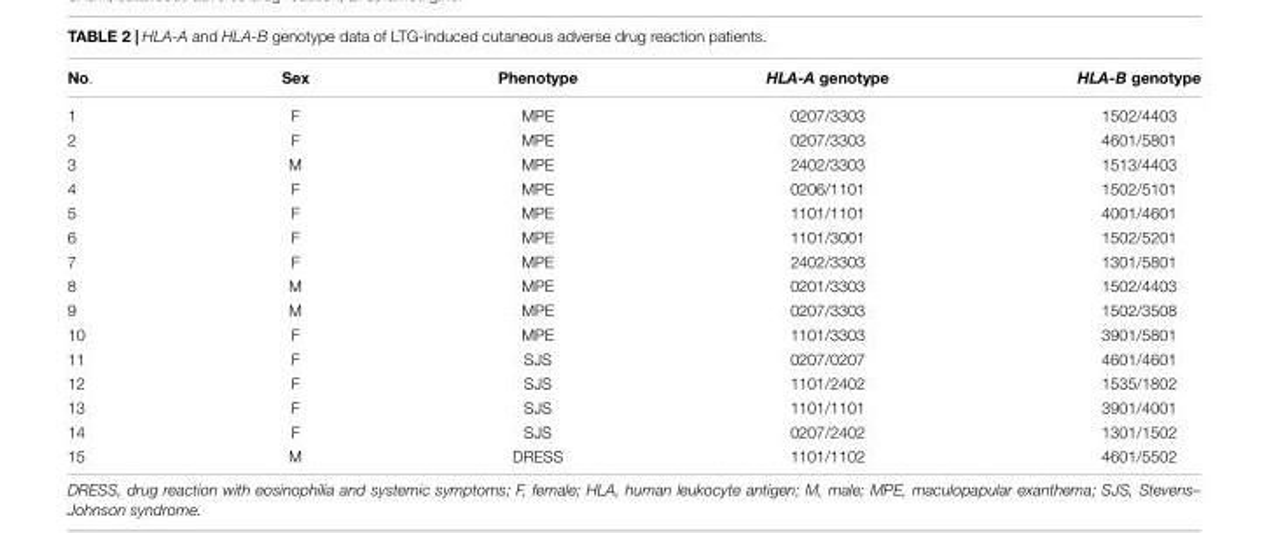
<table><thead><tr><td>No.</td><td>Sex</td><td>Phenotype</td><td>HLA-A genotype</td><td>HLA-B genotype</td></tr></thead><tbody><tr><td>1</td><td>F</td><td>MPE</td><td>0207/3303</td><td>1502/4403</td></tr><tr><td>2</td><td>F</td><td>MPE</td><td>0207/3303</td><td>4601/5801</td></tr><tr><td>3</td><td>M</td><td>MPE</td><td>2402/3303</td><td>1513/4403</td></tr><tr><td>4</td><td>F</td><td>MPE</td><td>0206/1101</td><td>1502/5101</td></tr><tr><td>5</td><td>F</td><td>MPE</td><td>1101/1101</td><td>4001/4601</td></tr><tr><td>6</td><td>F</td><td>MPE</td><td>1101/3001</td><td>1502/5201</td></tr><tr><td>7</td><td>F</td><td>MPE</td><td>2402/3303</td><td>1301/5801</td></tr><tr><td>8</td><td>M</td><td>MPE</td><td>0201/3303</td><td>1502/4403</td></tr><tr><td>9</td><td>M</td><td>MPE</td><td>0207/3303</td><td>1502/3508</td></tr><tr><td>10</td><td>F</td><td>MPE</td><td>1101/3303</td><td>3901/5801</td></tr><tr><td>11</td><td>F</td><td>SJS</td><td>0207/0207</td><td>4601/4601</td></tr><tr><td>12</td><td>F</td><td>SJS</td><td>1101/2402</td><td>1535/1802</td></tr><tr><td>13</td><td>F</td><td>SJS</td><td>1101/1101</td><td>3901/4001</td></tr><tr><td>14</td><td>F</td><td>SJS</td><td>0207/2402</td><td>1301/1502</td></tr><tr><td>15</td><td>M</td><td>DRESS</td><td>1101/1102</td><td>4601/5502</td></tr></tbody></table>